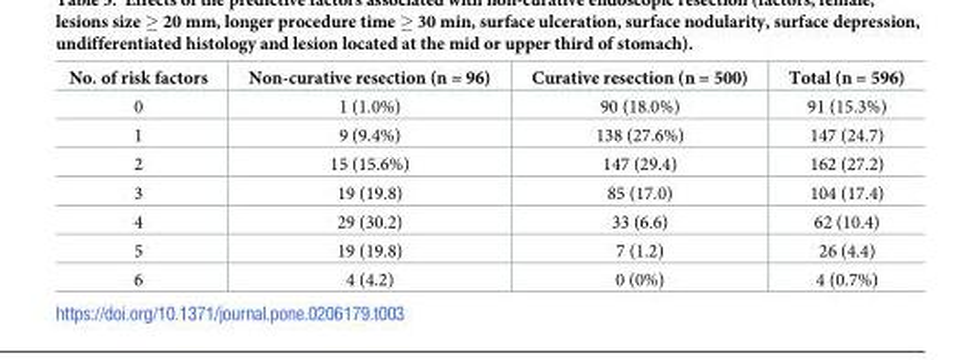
<table><thead><tr><td>No. of risk factors</td><td>Non-curative resection (n = 96)</td><td>Curative resection (n = 500)</td><td>Total (n = 596)</td></tr></thead><tbody><tr><td>0</td><td>1 (1.0%)</td><td>90 (18.0%)</td><td>91 (15.3%)</td></tr><tr><td>1</td><td>9 (9.4%)</td><td>138 (27.6%)</td><td>147 (24.7)</td></tr><tr><td>2</td><td>15 (15.6%)</td><td>147 (29.4)</td><td>162 (27.2)</td></tr><tr><td>3</td><td>19 (19.8)</td><td>85 (17.0)</td><td>104 (17.4)</td></tr><tr><td>4</td><td>29 (30.2)</td><td>33 (6.6)</td><td>62 (10.4)</td></tr><tr><td>5</td><td>19 (19.8)</td><td>7 (1.2)</td><td>26 (4.4)</td></tr><tr><td>6</td><td>4 (4.2)</td><td>0 (0%)</td><td>4 (0.7%)</td></tr></tbody></table>